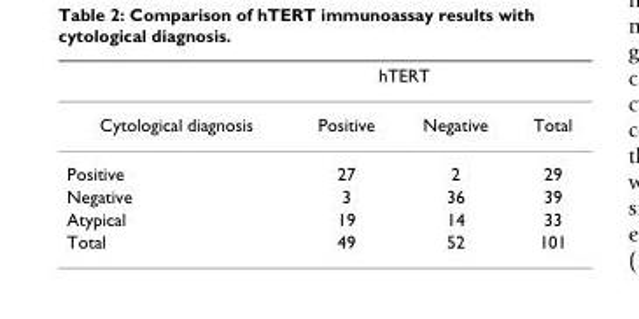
<table><thead><tr><td rowspan="2">Cytological diagnosis</td><td colspan="2">hTERT</td><td rowspan="2">Total</td></tr><tr><td>Positive</td><td>Negative</td></tr></thead><tbody><tr><td>Positive</td><td>27</td><td>2</td><td>29</td></tr><tr><td>Negative</td><td>3</td><td>36</td><td>39</td></tr><tr><td>Atypical</td><td>19</td><td>14</td><td>33</td></tr><tr><td>Total</td><td>49</td><td>52</td><td>101</td></tr></tbody></table>